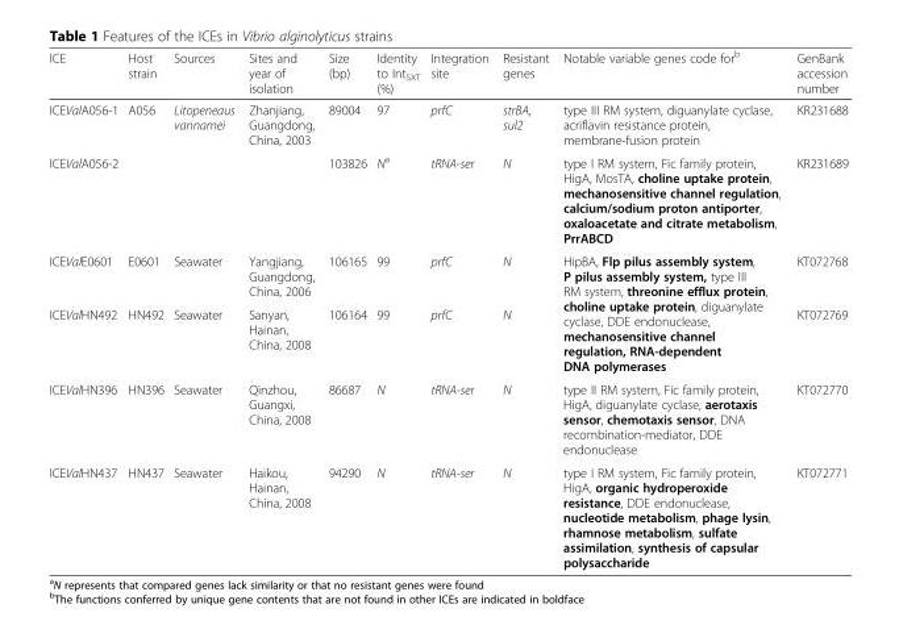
<table><thead><tr><td>ICE</td><td>Host strain</td><td>Sources</td><td>Sites and year of isolation</td><td>Size (bp)</td><td>Identity to Int<sub>SXT</sub> (%)</td><td>Integration site</td><td>Resistant genes</td><td>Notable variable genes code for<sup>b</sup></td><td>GenBank accession number</td></tr></thead><tbody><tr><td>ICEValA056-1</td><td rowspan="2">A056</td><td rowspan="2">Litopeneaus vannamei</td><td rowspan="2">Zhanjiang, Guangdong, China, 2003</td><td>89004</td><td>97</td><td>prfC</td><td>strBA, sul2</td><td>type III RM system, diguanylate cyclase, acriflavin resistance protein, membrane-fusion protein</td><td>KR231688</td></tr><tr><td>ICEValA056-2</td><td>103826</td><td>N<sup>a</sup></td><td>tRNA-ser</td><td>N</td><td>type I RM system, Fic family protein, HigA, MosTA, choline uptake protein, mechanosensitive channel regulation, calcium/sodium proton antiporter, oxaloacetate and citrate metabolism, PrrABCD</td><td>KR231689</td></tr><tr><td>ICEValE0601</td><td>E0601</td><td>Seawater</td><td>Yangjiang, Guangdong, China, 2006</td><td>106165</td><td>99</td><td>prfC</td><td>N</td><td rowspan="2">HipBA, Flp pilus assembly system, P pilus assembly system, type III RM system, threonine efflux protein, choline uptake protein, diguanylate cyclase, DDE endonuclease, mechanosensitive channel regulation, RNA-dependent DNA polymerases</td><td>KT072768</td></tr><tr><td>ICEValHN492</td><td>HN492</td><td>Seawater</td><td>Sanyan, Hainan, China, 2008</td><td>106164</td><td>99</td><td>prfC</td><td>N</td><td>KT072769</td></tr><tr><td>ICEValHN396</td><td>HN396</td><td>Seawater</td><td>Qinzhou, Guangxi, China, 2008</td><td>86687</td><td>N</td><td>tRNA-ser</td><td>N</td><td>type II RM system, Fic family protein, HigA, diguanylate cyclase, aerotaxis sensor, chemotaxis sensor, DNA recombination-mediator, DDE endonuclease</td><td>KT072770</td></tr><tr><td>ICEValHN437</td><td>HN437</td><td>Seawater</td><td>Haikou, Hainan, China, 2008</td><td>94290</td><td>N</td><td>tRNA-ser</td><td>N</td><td>type I RM system, Fic family protein, HigA, organic hydroperoxide resistance, DDE endonuclease, nucleotide metabolism, phage lysin, rhamnose metabolism, sulfate assimilation, synthesis of capsular polysaccharide</td><td>KT072771</td></tr></tbody></table>